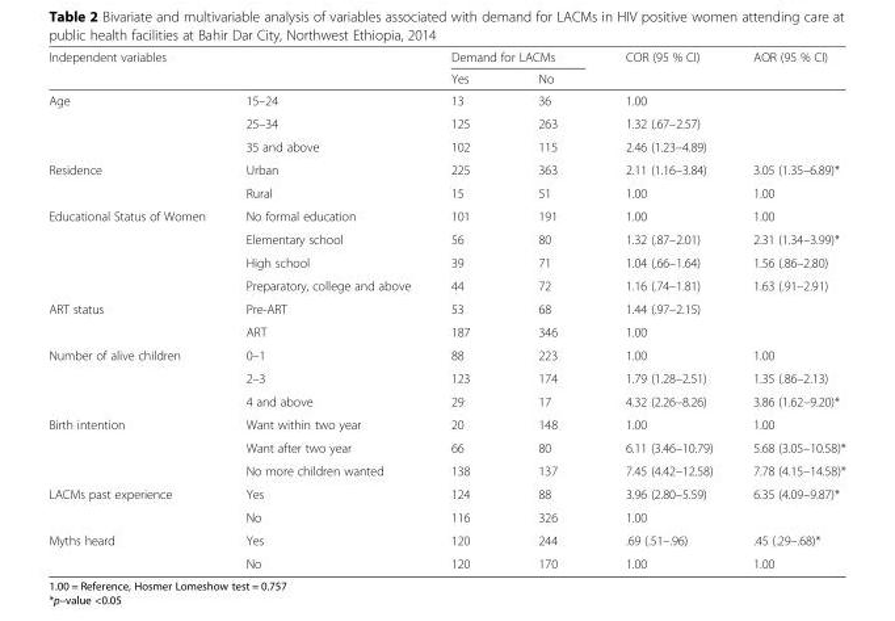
<table><thead><tr><td rowspan="2">Independent variables</td><td rowspan="2"></td><td colspan="2">Demand for LACMs</td><td rowspan="2">COR (95 % CI)</td><td rowspan="2">AOR (95 % CI)</td></tr><tr><td>Yes</td><td>No</td></tr></thead><tbody><tr><td rowspan="3">Age</td><td>15–24</td><td>13</td><td>36</td><td>1.00</td><td></td></tr><tr><td>25–34</td><td>125</td><td>263</td><td>1.32 (.67–2.57)</td><td></td></tr><tr><td>35 and above</td><td>102</td><td>115</td><td>2.46 (1.23–4.89)</td><td></td></tr><tr><td rowspan="2">Residence</td><td>Urban</td><td>225</td><td>363</td><td>2.11 (1.16–3.84)</td><td>3.05 (1.35–6.89)*</td></tr><tr><td>Rural</td><td>15</td><td>51</td><td>1.00</td><td>1.00</td></tr><tr><td rowspan="4">Educational Status of Women</td><td>No formal education</td><td>101</td><td>191</td><td>1.00</td><td>1.00</td></tr><tr><td>Elementary school</td><td>56</td><td>80</td><td>1.32 (.87–2.01)</td><td>2.31 (1.34–3.99)*</td></tr><tr><td>High school</td><td>39</td><td>71</td><td>1.04 (.66–1.64)</td><td>1.56 (.86–2.80)</td></tr><tr><td>Preparatory, college and above</td><td>44</td><td>72</td><td>1.16 (.74–1.81)</td><td>1.63 (.91–2.91)</td></tr><tr><td rowspan="2">ART status</td><td>Pre-ART</td><td>53</td><td>68</td><td>1.44 (.97–2.15)</td><td></td></tr><tr><td>ART</td><td>187</td><td>346</td><td>1.00</td><td></td></tr><tr><td rowspan="3">Number of alive children</td><td>0–1</td><td>88</td><td>223</td><td>1.00</td><td>1.00</td></tr><tr><td>2–3</td><td>123</td><td>174</td><td>1.79 (1.28–2.51)</td><td>1.35 (.86–2.13)</td></tr><tr><td>4 and above</td><td>29</td><td>17</td><td>4.32 (2.26–8.26)</td><td>3.86 (1.62–9.20)*</td></tr><tr><td rowspan="3">Birth intention</td><td>Want within two year</td><td>20</td><td>148</td><td>1.00</td><td>1.00</td></tr><tr><td>Want after two year</td><td>66</td><td>80</td><td>6.11 (3.46–10.79)</td><td>5.68 (3.05–10.58)*</td></tr><tr><td>No more children wanted</td><td>138</td><td>137</td><td>7.45 (4.42–12.58)</td><td>7.78 (4.15–14.58)*</td></tr><tr><td rowspan="2">LACMs past experience</td><td>Yes</td><td>124</td><td>88</td><td>3.96 (2.80–5.59)</td><td>6.35 (4.09–9.87)*</td></tr><tr><td>No</td><td>116</td><td>326</td><td>1.00</td><td></td></tr><tr><td rowspan="2">Myths heard</td><td>Yes</td><td>120</td><td>244</td><td>.69 (.51–.96)</td><td>.45 (.29–.68)*</td></tr><tr><td>No</td><td>120</td><td>170</td><td>1.00</td><td>1.00</td></tr></tbody></table>